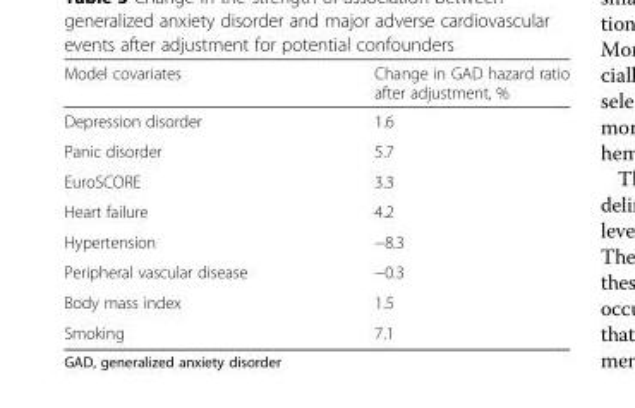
<table><thead><tr><td>Model covariates</td><td>Change in GAD hazard ratio after adjustment, %</td></tr></thead><tbody><tr><td>Depression disorder</td><td>1.6</td></tr><tr><td>Panic disorder</td><td>5.7</td></tr><tr><td>EuroSCORE</td><td>3.3</td></tr><tr><td>Heart failure</td><td>4.2</td></tr><tr><td>Hypertension</td><td>−8.3</td></tr><tr><td>Peripheral vascular disease</td><td>−0.3</td></tr><tr><td>Body mass index</td><td>1.5</td></tr><tr><td>Smoking</td><td>7.1</td></tr></tbody></table>